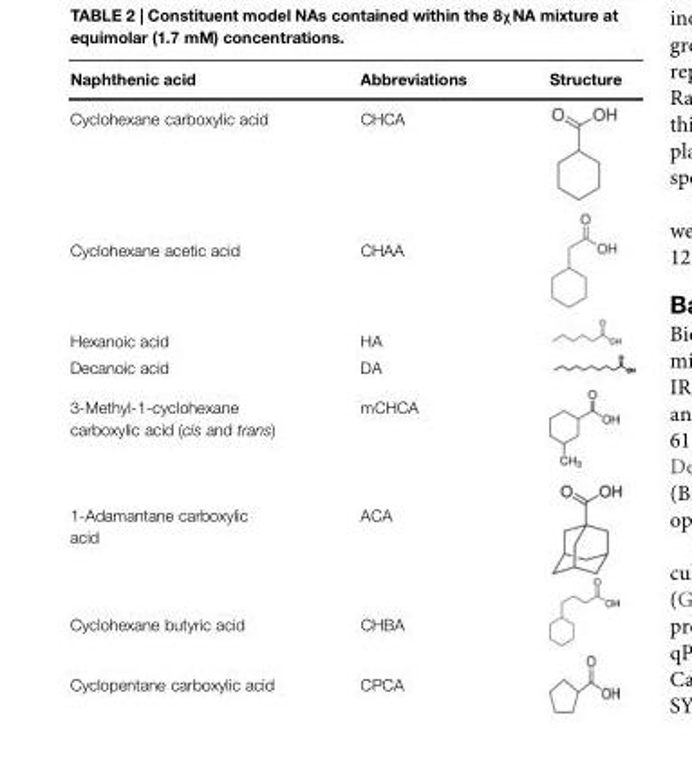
<table><thead><tr><td>Naphthenic acid</td><td>Abbreviations</td><td>Structure</td></tr></thead><tbody><tr><td>Cyclohexane carboxylic acid</td><td>CHCA</td><td></td></tr><tr><td>Cyclohexane acetic acid</td><td>CHAA</td><td></td></tr><tr><td>Hexanoic acid</td><td>HA</td><td></td></tr><tr><td>Decanoic acid</td><td>DA</td><td></td></tr><tr><td>3-Methyl-1-cyclohexane carboxylic acid (cis and trans)</td><td>mCHCA</td><td></td></tr><tr><td>1-Adamantane carboxylic acid</td><td>ACA</td><td></td></tr><tr><td>Cyclohexane butyric acid</td><td>CHBA</td><td></td></tr><tr><td>Cyclopentane carboxylic acid</td><td>CPCA</td><td></td></tr></tbody></table>